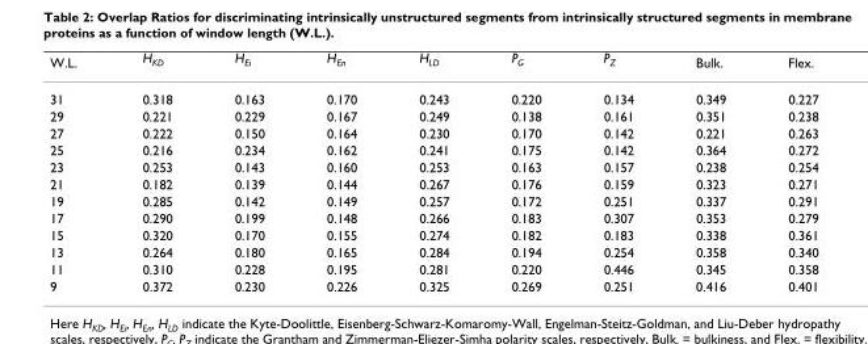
<table><thead><tr><td>W.L.</td><td>H<sub>KD</sub></td><td>H<sub>Ei</sub></td><td>H<sub>En</sub></td><td>H<sub>LD</sub></td><td>P<sub>G</sub></td><td>P<sub>Z</sub></td><td>Bulk.</td><td>Flex.</td></tr></thead><tbody><tr><td>31</td><td>0.318</td><td>0.163</td><td>0.170</td><td>0.243</td><td>0.220</td><td>0.134</td><td>0.349</td><td>0.227</td></tr><tr><td>29</td><td>0.221</td><td>0.229</td><td>0.167</td><td>0.249</td><td>0.138</td><td>0.161</td><td>0.351</td><td>0.238</td></tr><tr><td>27</td><td>0.222</td><td>0.150</td><td>0.164</td><td>0.230</td><td>0.170</td><td>0.142</td><td>0.221</td><td>0.263</td></tr><tr><td>25</td><td>0.216</td><td>0.234</td><td>0.162</td><td>0.241</td><td>0.175</td><td>0.142</td><td>0.364</td><td>0.272</td></tr><tr><td>23</td><td>0.253</td><td>0.143</td><td>0.160</td><td>0.253</td><td>0.163</td><td>0.157</td><td>0.238</td><td>0.254</td></tr><tr><td>21</td><td>0.182</td><td>0.139</td><td>0.144</td><td>0.267</td><td>0.176</td><td>0.159</td><td>0.323</td><td>0.271</td></tr><tr><td>19</td><td>0.285</td><td>0.142</td><td>0.149</td><td>0.257</td><td>0.172</td><td>0.251</td><td>0.337</td><td>0.291</td></tr><tr><td>17</td><td>0.290</td><td>0.199</td><td>0.148</td><td>0.266</td><td>0.183</td><td>0.307</td><td>0.353</td><td>0.279</td></tr><tr><td>15</td><td>0.320</td><td>0.170</td><td>0.155</td><td>0.274</td><td>0.182</td><td>0.183</td><td>0.338</td><td>0.361</td></tr><tr><td>13</td><td>0.264</td><td>0.180</td><td>0.165</td><td>0.284</td><td>0.194</td><td>0.254</td><td>0.358</td><td>0.340</td></tr><tr><td>11</td><td>0.310</td><td>0.228</td><td>0.195</td><td>0.281</td><td>0.220</td><td>0.446</td><td>0.345</td><td>0.358</td></tr><tr><td>9</td><td>0.372</td><td>0.230</td><td>0.226</td><td>0.325</td><td>0.269</td><td>0.251</td><td>0.416</td><td>0.401</td></tr></tbody></table>